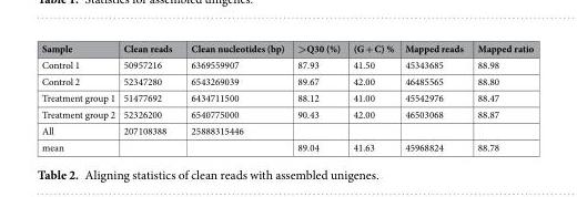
<table><thead><tr><td>Sample</td><td>Clean reads</td><td>Clean nucleotides (bp)</td><td>&gt;Q30 (%)</td><td>(G + C) %</td><td>Mapped reads</td><td>Mapped ratio</td></tr></thead><tbody><tr><td>Control 1</td><td>50957216</td><td>6369559907</td><td>87.93</td><td>41.50</td><td>45343685</td><td>88.98</td></tr><tr><td>Control 2</td><td>52347280</td><td>6543269039</td><td>89.67</td><td>42.00</td><td>46485565</td><td>88.80</td></tr><tr><td>Treatment group 1</td><td>51477692</td><td>6434711500</td><td>88.12</td><td>41.00</td><td>45542976</td><td>88.47</td></tr><tr><td>Treatment group 2</td><td>52326200</td><td>6540775000</td><td>90.43</td><td>42.00</td><td>46503068</td><td>88.87</td></tr><tr><td>All</td><td>207108388</td><td>25888315446</td><td></td><td></td><td></td><td></td></tr><tr><td>mean</td><td></td><td></td><td>89.04</td><td>41.63</td><td>45968824</td><td>88.78</td></tr></tbody></table>